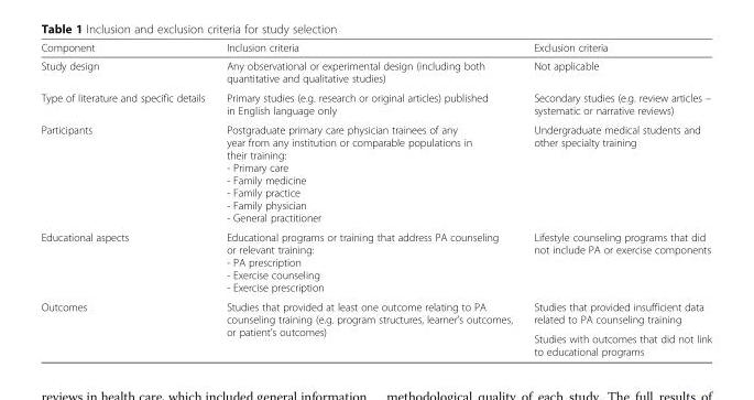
<table><thead><tr><td>Component</td><td>Inclusion criteria</td><td>Exclusion criteria</td></tr></thead><tbody><tr><td>Study design</td><td>Any observational or experimental design (including both quantitative and qualitative studies)</td><td>Not applicable</td></tr><tr><td>Type of literature and specific details</td><td>Primary studies (e.g. research or original articles) published in English language only</td><td>Secondary studies (e.g. review articles – systematic or narrative reviews)</td></tr><tr><td>Participants</td><td>Postgraduate primary care physician trainees of any year from any institution or comparable populations in their training: - Primary care - Family medicine - Family practice - Family physician - General practitioner</td><td>Undergraduate medical students and other specialty training</td></tr><tr><td>Educational aspects</td><td>Educational programs or training that address PA counseling or relevant training: - PA prescription - Exercise counseling - Exercise prescription</td><td>Lifestyle counseling programs that did not include PA or exercise components</td></tr><tr><td rowspan="2">Outcomes</td><td rowspan="2">Studies that provided at least one outcome relating to PA counseling training (e.g. program structures, learner’s outcomes, or patient’s outcomes)</td><td>Studies that provided insufficient data related to PA counseling training</td></tr><tr><td>Studies with outcomes that did not link to educational programs</td></tr></tbody></table>